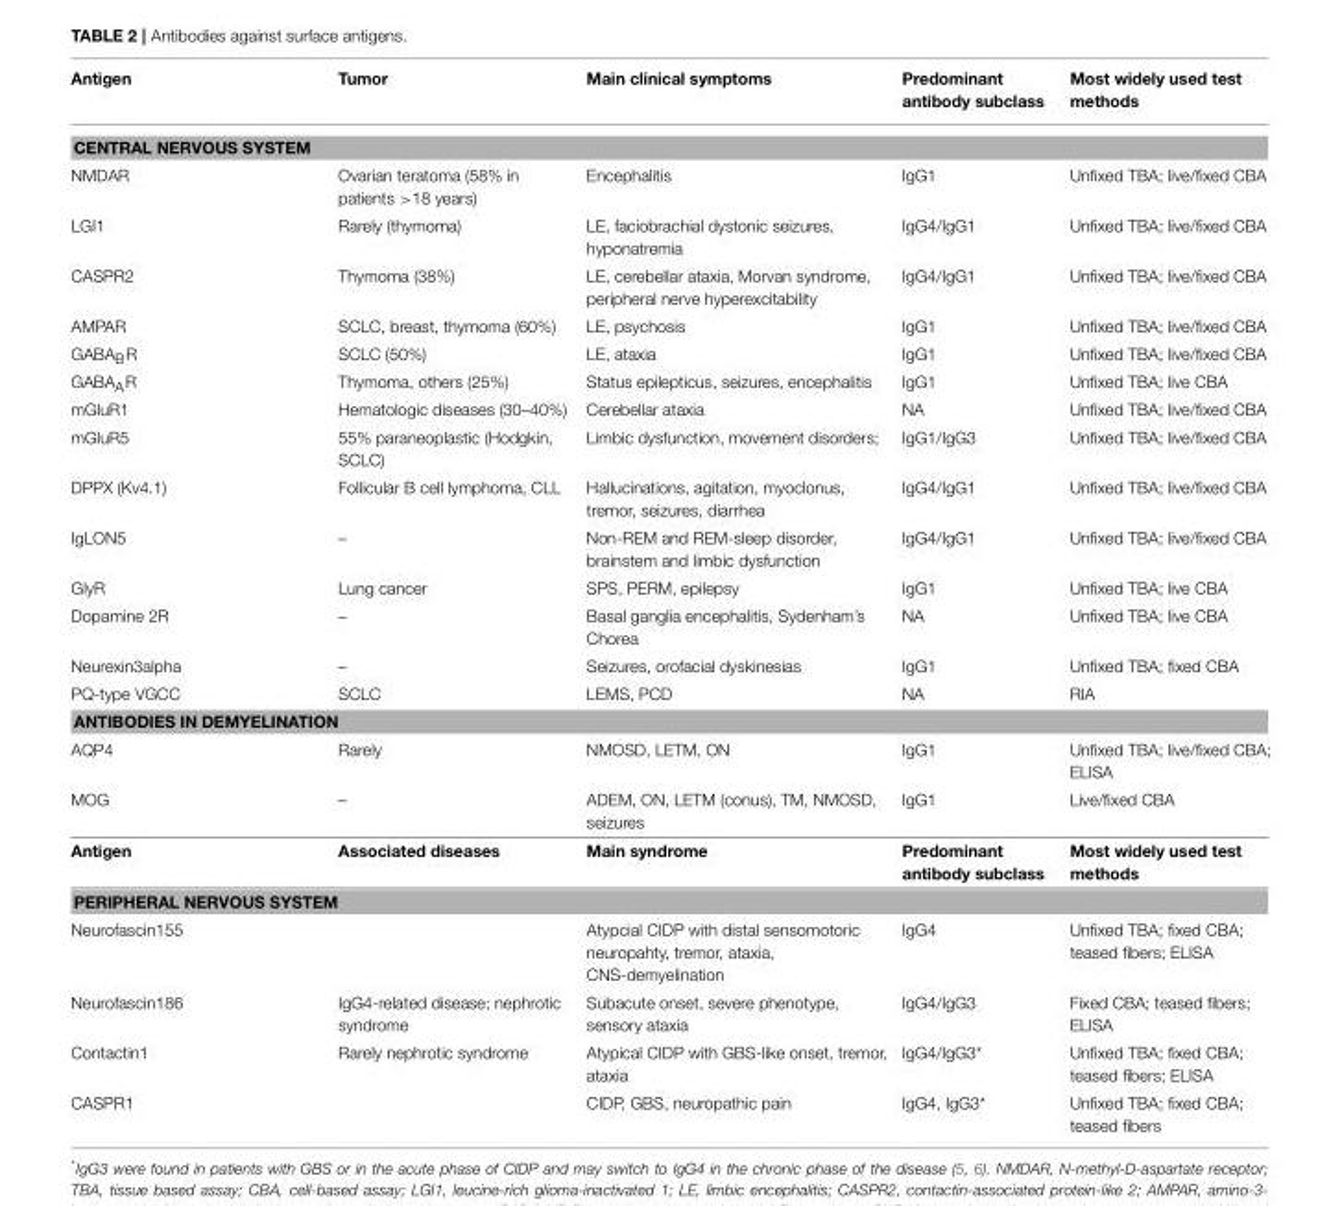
<table><thead><tr><td>Antigen</td><td>Tumor</td><td>Main clinical symptoms</td><td>Predominant antibody subclass</td><td>Most widely used test methods</td></tr></thead><tbody><tr><td colspan="5">CENTRAL NERVOUS SYSTEM</td></tr><tr><td>NMDAR</td><td>Ovarian teratoma (58% in patients &gt;18 years)</td><td>Encephalitis</td><td>IgG1</td><td>Unfixed TBA; live/fixed CBA</td></tr><tr><td>LGI1</td><td>Rarely (thymoma)</td><td>LE, faciobrachial dystonic seizures, hyponatremia</td><td>IgG4/IgG1</td><td>Unfixed TBA; live/fixed CBA</td></tr><tr><td>CASPR2</td><td>Thymoma (38%)</td><td>LE, cerebellar ataxia, Morvan syndrome, peripheral nerve hyperexcitability</td><td>IgG4/IgG1</td><td>Unfixed TBA; live/fixed CBA</td></tr><tr><td>AMPAR</td><td>SCLC, breast, thymoma (60%)</td><td>LE, psychosis</td><td>IgG1</td><td>Unfixed TBA; live/fixed CBA</td></tr><tr><td>GABA<sub>B</sub>R</td><td>SCLC (50%)</td><td>LE, ataxia</td><td>IgG1</td><td>Unfixed TBA; live/fixed CBA</td></tr><tr><td>GABA<sub>A</sub>R</td><td>Thymoma, others (25%)</td><td>Status epilepticus, seizures, encephalitis</td><td>IgG1</td><td>Unfixed TBA; live CBA</td></tr><tr><td>mGluR1</td><td>Hematologic diseases (30–40%)</td><td>Cerebellar ataxia</td><td>NA</td><td>Unfixed TBA; live/fixed CBA</td></tr><tr><td>mGluR5</td><td>55% paraneoplastic (Hodgkin, SCLC)</td><td>Limbic dysfunction, movement disorders;</td><td>IgG1/IgG3</td><td>Unfixed TBA; live/fixed CBA</td></tr><tr><td>DPPX (Kv4.1)</td><td>Follicular B cell lymphoma, CLL</td><td>Hallucinations, agitation, myoclonus, tremor, seizures, diarrhea</td><td>IgG4/IgG1</td><td>Unfixed TBA; live/fixed CBA</td></tr><tr><td>IgLON5</td><td>–</td><td>Non-REM and REM-sleep disorder, brainstem and limbic dysfunction</td><td>IgG4/IgG1</td><td>Unfixed TBA; live/fixed CBA</td></tr><tr><td>GlyR</td><td>Lung cancer</td><td>SPS, PERM, epilepsy</td><td>IgG1</td><td>Unfixed TBA; live CBA</td></tr><tr><td>Dopamine 2R</td><td>–</td><td>Basal ganglia encephalitis, Sydenham’s Chorea</td><td>NA</td><td>Unfixed TBA; live CBA</td></tr><tr><td>Neurexin3alpha</td><td>–</td><td>Seizures, orofacial dyskinesias</td><td>IgG1</td><td>Unfixed TBA; fixed CBA</td></tr><tr><td>PQ-type VGCC</td><td>SCLC</td><td>LEMS, PCD</td><td>NA</td><td>RIA</td></tr><tr><td colspan="5">ANTIBODIES IN DEMYELINATION</td></tr><tr><td>AQP4</td><td>Rarely</td><td>NMOSD, LETM, ON</td><td>IgG1</td><td>Unfixed TBA; live/fixed CBA; ELISA</td></tr><tr><td>MOG</td><td>–</td><td>ADEM, ON, LETM (conus), TM, NMOSD, seizures</td><td>IgG1</td><td>Live/fixed CBA</td></tr><tr><td>Antigen</td><td>Associated diseases</td><td>Main syndrome</td><td>Predominant antibody subclass</td><td>Most widely used test methods</td></tr><tr><td colspan="5">PERIPHERAL NERVOUS SYSTEM</td></tr><tr><td>Neurofascin155</td><td></td><td>Atypcial CIDP with distal sensomotoric neuropahty, tremor, ataxia, CNS-demyelination</td><td>IgG4</td><td>Unfixed TBA; fixed CBA; teased fibers; ELISA</td></tr><tr><td>Neurofascin186</td><td>IgG4-related disease; nephrotic syndrome</td><td>Subacute onset, severe phenotype, sensory ataxia</td><td>IgG4/IgG3</td><td>Fixed CBA; teased fibers; ELISA</td></tr><tr><td>Contactin1</td><td>Rarely nephrotic syndrome</td><td>Atypical CIDP with GBS-like onset, tremor, ataxia</td><td>IgG4/IgG3*</td><td>Unfixed TBA; fixed CBA; teased fibers; ELISA</td></tr><tr><td>CASPR1</td><td></td><td>CIDP, GBS, neuropathic pain</td><td>IgG4, IgG3*</td><td>Unfixed TBA; fixed CBA; teased fibers</td></tr></tbody></table>